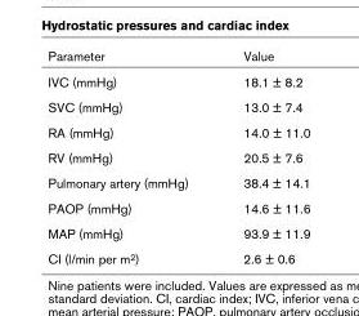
<table><thead><tr><td>Parameter</td><td>Value</td></tr></thead><tbody><tr><td>IVC (mmHg)</td><td>18.1 ± 8.2</td></tr><tr><td>SVC (mmHg)</td><td>13.0 ± 7.4</td></tr><tr><td>RA (mmHg)</td><td>14.0 ± 11.0</td></tr><tr><td>RV (mmHg)</td><td>20.5 ± 7.6</td></tr><tr><td>Pulmonary artery (mmHg)</td><td>38.4 ± 14.1</td></tr><tr><td>PAOP (mmHg)</td><td>14.6 ± 11.6</td></tr><tr><td>MAP (mmHg)</td><td>93.9 ± 11.9</td></tr><tr><td>CI (l/min per m<sup>2</sup>)</td><td>2.6 ± 0.6</td></tr></tbody></table>